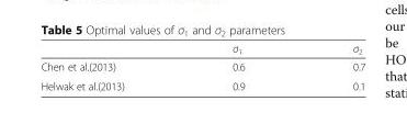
<table><thead><tr><td></td><td>σ<sub>1</sub></td><td>σ<sub>2</sub></td></tr></thead><tbody><tr><td>Chen et al.(2013)</td><td>0.6</td><td>0.7</td></tr><tr><td>Helwak et al.(2013)</td><td>0.9</td><td>0.1</td></tr></tbody></table>